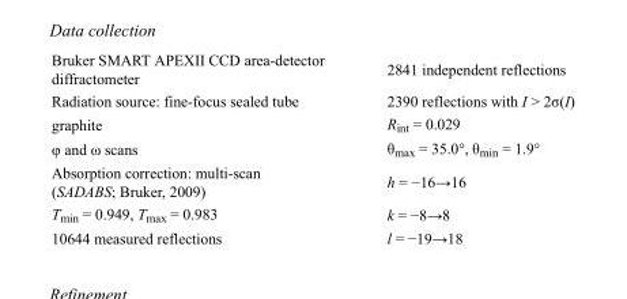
<table><tbody><tr><td>Bruker SMART APEXII CCD area-detector diffractometer</td><td>2841 independent reflections</td></tr><tr><td>Radiation source: fine-focus sealed tube</td><td>2390 reflections with I &gt; 2σ(I)</td></tr><tr><td>graphite</td><td>R<sub>int</sub> = 0.029</td></tr><tr><td>φ and ω scans</td><td>θ<sub>max</sub> = 35.0°, θ<sub>min</sub> = 1.9°</td></tr><tr><td>Absorption correction: multi-scan (SADABS; Bruker, 2009)</td><td>h = −16→16</td></tr><tr><td>T<sub>min</sub> = 0.949, T<sub>max</sub> = 0.983</td><td>k = −8→8</td></tr><tr><td>10644 measured reflections</td><td>l = −19→18</td></tr></tbody></table>